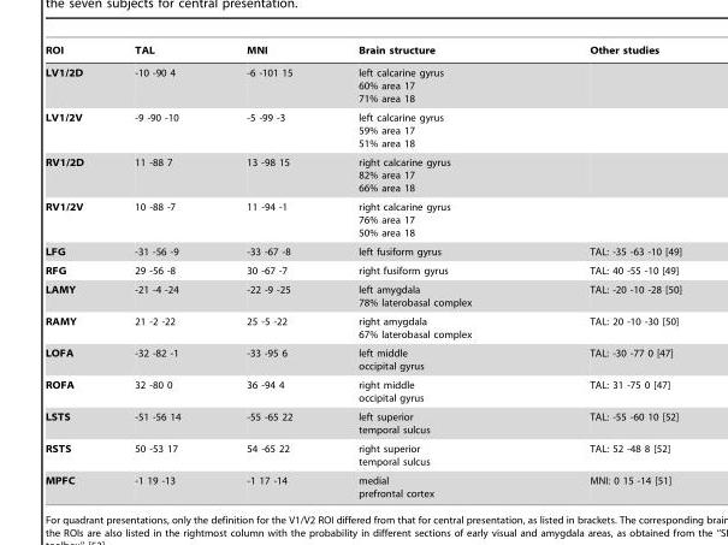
<table><thead><tr><td>ROI</td><td>TAL</td><td>MNI</td><td>Brain structure</td><td>Other studies</td></tr></thead><tbody><tr><td>LV1/2D</td><td>-10 -90 4</td><td>-6 -101 15</td><td>left calcarine gyrus 60% area 17 71% area 18</td><td></td></tr><tr><td>LV1/2V</td><td>-9 -90 -10</td><td>-5 -99 -3</td><td>left calcarine gyrus 59% area 17 51% area 18</td><td></td></tr><tr><td>RV1/2D</td><td>11 -88 7</td><td>13 -98 15</td><td>right calcarine gyrus 82% area 17 66% area 18</td><td></td></tr><tr><td>RV1/2V</td><td>10 -88 -7</td><td>11 -94 -1</td><td>right calcarine gyrus 76% area 17 50% area 18</td><td></td></tr><tr><td>LFG</td><td>-31 -56 -9</td><td>-33 -67 -8</td><td>left fusiform gyrus</td><td>TAL: -35 -63 -10 [49]</td></tr><tr><td>RFG</td><td>29 -56 -8</td><td>30 -67 -7</td><td>right fusiform gyrus</td><td>TAL: 40 -55 -10 [49]</td></tr><tr><td>LAMY</td><td>-21 -4 -24</td><td>-22 -9 -25</td><td>left amygdala 78% laterobasal complex</td><td>TAL: -20 -10 -28 [50]</td></tr><tr><td>RAMY</td><td>21 -2 -22</td><td>25 -5 -22</td><td>right amygdala 67% laterobasal complex</td><td>TAL: 20 -10 -30 [50]</td></tr><tr><td>LOFA</td><td>-32 -82 -1</td><td>-33 -95 6</td><td>left middle occipital gyrus</td><td>TAL: -30 -77 0 [47]</td></tr><tr><td>ROFA</td><td>32 -80 0</td><td>36 -94 4</td><td>right middle occipital gyrus</td><td>TAL: 31 -75 0 [47]</td></tr><tr><td>LSTS</td><td>-51 -56 14</td><td>-55 -65 22</td><td>left superior temporal sulcus</td><td>TAL: -55 -60 10 [52]</td></tr><tr><td>RSTS</td><td>50 -53 17</td><td>54 -65 22</td><td>right superior temporal sulcus</td><td>TAL: 52 -48 8 [52]</td></tr><tr><td>MPFC</td><td>-1 19 -13</td><td>-1 17 -14</td><td>medial prefrontal cortex</td><td>MNI: 0 15 -14 [51]</td></tr></tbody></table>